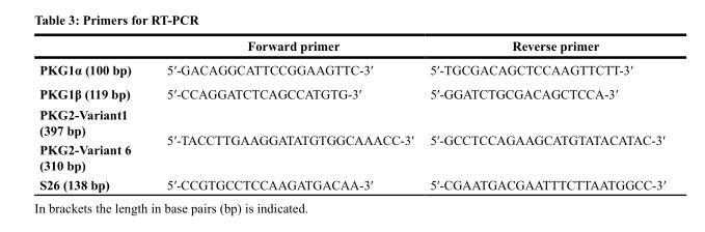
<table><thead><tr><td></td><td>Forward primer</td><td>Reverse primer</td></tr></thead><tbody><tr><td>PKG1α (100 bp)</td><td>5′-GACAGGCATTCCGGAAGTTC-3′</td><td>5′-TGCGACAGCTCCAAGTTCTT-3′</td></tr><tr><td>PKG1β (119 bp)</td><td>5′-CCAGGATCTCAGCCATGTG-3′</td><td>5′-GGATCTGCGACAGCTCCA-3′</td></tr><tr><td>PKG2-Variant1 (397 bp)</td><td rowspan="2">5′-TACCTTGAAGGATATGTGGCAAACC-3′</td><td rowspan="2">5′-GCCTCCAGAAGCATGTATACATAC-3′</td></tr><tr><td>PKG2-Variant 6 (310 bp)</td></tr><tr><td>S26 (138 bp)</td><td>5′-CCGTGCCTCCAAGATGACAA-3′</td><td>5′-CGAATGACGAATTTCTTAATGGCC-3′</td></tr></tbody></table>